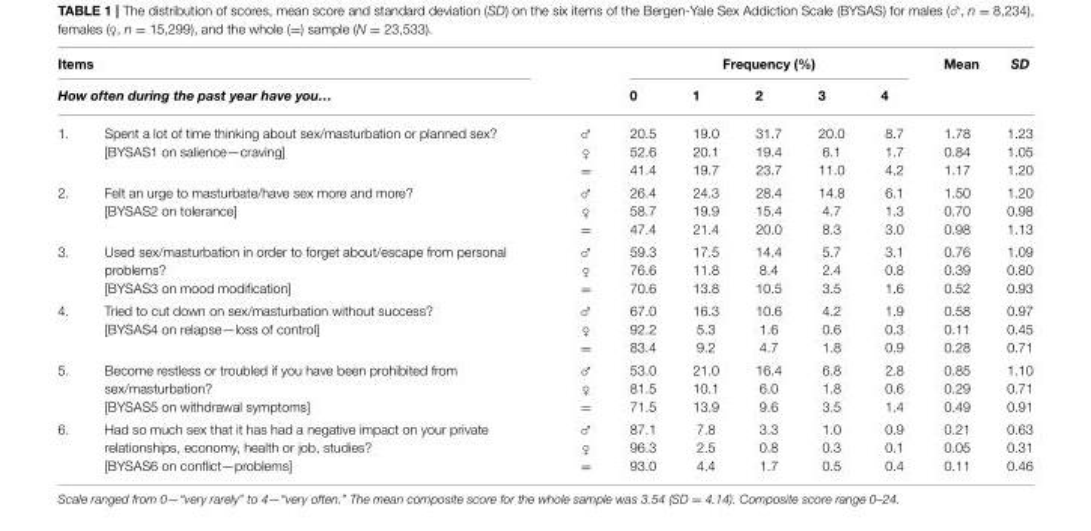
<table><thead><tr><td rowspan="2" colspan="2">Items How often during the past year have you…</td><td rowspan="3">♂ ♀ =</td><td colspan="5">Frequency (%)</td><td rowspan="3">Mean 1.78 0.84 1.17</td><td rowspan="3">SD 1.23 1.05 1.20</td></tr><tr><td rowspan="2">0 20.5 52.6 41.4</td><td rowspan="2">1 19.0 20.1 19.7</td><td rowspan="2">2 31.7 19.4 23.7</td><td rowspan="2">3 20.0 6.1 11.0</td><td rowspan="2">4 8.7 1.7 4.2</td></tr><tr><td>1.</td><td>Spent a lot of time thinking about sex/masturbation or planned sex? [BYSAS1 on salience—craving]</td></tr></thead><tbody><tr><td>2.</td><td>Felt an urge to masturbate/have sex more and more? [BYSAS2 on tolerance]</td><td>♂ ♀ =</td><td>26.4 58.7 47.4</td><td>24.3 19.9 21.4</td><td>28.4 15.4 20.0</td><td>14.8 4.7 8.3</td><td>6.1 1.3 3.0</td><td>1.50 0.70 0.98</td><td>1.20 0.98 1.13</td></tr><tr><td>3.</td><td>Used sex/masturbation in order to forget about/escape from personal problems? [BYSAS3 on mood modification]</td><td>♂ ♀ =</td><td>59.3 76.6 70.6</td><td>17.5 11.8 13.8</td><td>14.4 8.4 10.5</td><td>5.7 2.4 3.5</td><td>3.1 0.8 1.6</td><td>0.76 0.39 0.52</td><td>1.09 0.80 0.93</td></tr><tr><td>4.</td><td>Tried to cut down on sex/masturbation without success? [BYSAS4 on relapse—loss of control]</td><td>♂ ♀ =</td><td>67.0 92.2 83.4</td><td>16.3 5.3 9.2</td><td>10.6 1.6 4.7</td><td>4.2 0.6 1.8</td><td>1.9 0.3 0.9</td><td>0.58 0.11 0.28</td><td>0.97 0.45 0.71</td></tr><tr><td>5.</td><td>Become restless or troubled if you have been prohibited from sex/masturbation? [BYSAS5 on withdrawal symptoms]</td><td>♂ ♀ =</td><td>53.0 81.5 71.5</td><td>21.0 10.1 13.9</td><td>16.4 6.0 9.6</td><td>6.8 1.8 3.5</td><td>2.8 0.6 1.4</td><td>0.85 0.29 0.49</td><td>1.10 0.71 0.91</td></tr><tr><td>6.</td><td>Had so much sex that it has had a negative impact on your private relationships, economy, health or job, studies? [BYSAS6 on conflict—problems]</td><td>♂ ♀ =</td><td>87.1 96.3 93.0</td><td>7.8 2.5 4.4</td><td>3.3 0.8 1.7</td><td>1.0 0.3 0.5</td><td>0.9 0.1 0.4</td><td>0.21 0.05 0.11</td><td>0.63 0.31 0.46</td></tr></tbody></table>